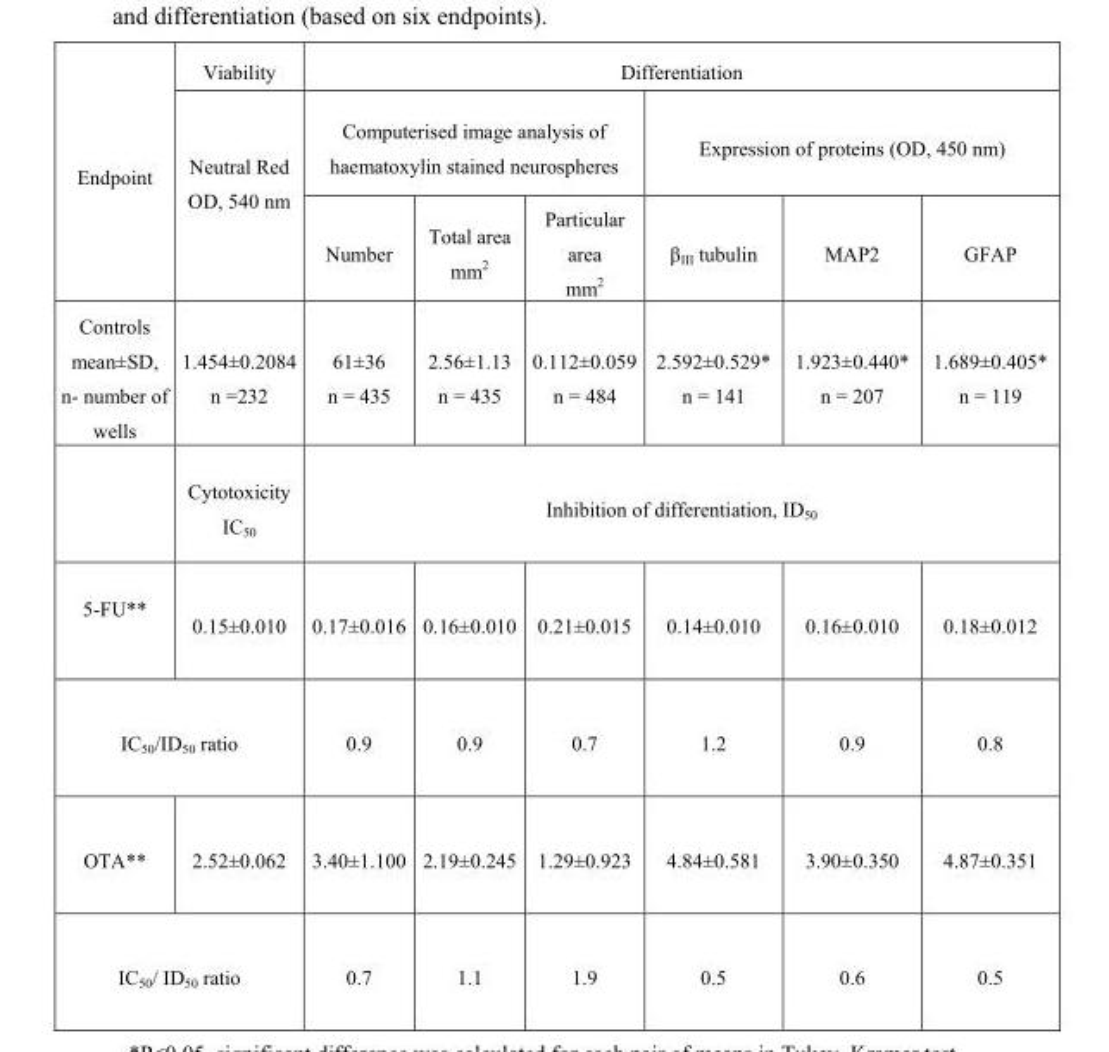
<table><thead><tr><td rowspan="3">Endpoint</td><td rowspan="3">Viability Neutral Red OD, 540 nm</td><td colspan="6">Differentiation</td></tr><tr><td colspan="3">Computerised image analysis of haematoxylin stained neurospheres</td><td colspan="3">Expression of proteins (OD, 450 nm)</td></tr><tr><td>Number</td><td>Total area mm<sup>2</sup></td><td>Particular area mm<sup>2</sup></td><td>β<sub>III</sub> tubulin</td><td>MAP2</td><td>GFAP</td></tr></thead><tbody><tr><td rowspan="2">Controls mean±SD, n- number of wells</td><td>1.454±0.2084 n =232</td><td>61±36 n = 435</td><td>2.56±1.13 n = 435</td><td>0.112±0.059 n = 484</td><td>2.592±0.529* n = 141</td><td>1.923±0.440* n = 207</td><td>1.689±0.405* n = 119</td></tr><tr><td>Cytotoxicity IC<sub>50</sub></td><td colspan="6">Inhibition of differentiation, ID<sub>50</sub></td></tr><tr><td>5-FU**</td><td>0.15±0.010</td><td>0.17±0.016</td><td>0.16±0.010</td><td>0.21±0.015</td><td>0.14±0.010</td><td>0.16±0.010</td><td>0.18±0.012</td></tr><tr><td colspan="2">IC<sub>50</sub>/ID<sub>50</sub> ratio</td><td>0.9</td><td>0.9</td><td>0.7</td><td>1.2</td><td>0.9</td><td>0.8</td></tr><tr><td>OTA**</td><td>2.52±0.062</td><td>3.40±1.100</td><td>2.19±0.245</td><td>1.29±0.923</td><td>4.84±0.581</td><td>3.90±0.350</td><td>4.87±0.351</td></tr><tr><td colspan="2">IC<sub>50</sub>/ ID<sub>50</sub> ratio</td><td>0.7</td><td>1.1</td><td>1.9</td><td>0.5</td><td>0.6</td><td>0.5</td></tr></tbody></table>